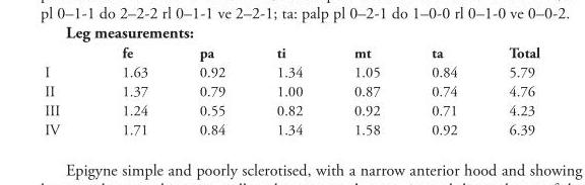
<table><thead><tr><td></td><td>fe</td><td>pa</td><td>ti</td><td>mt</td><td>ta</td><td>Total</td></tr></thead><tbody><tr><td>I</td><td>1.63</td><td>0.92</td><td>1.34</td><td>1.05</td><td>0.84</td><td>5.79</td></tr><tr><td>II</td><td>1.37</td><td>0.79</td><td>1.00</td><td>0.87</td><td>0.74</td><td>4.76</td></tr><tr><td>III</td><td>1.24</td><td>0.55</td><td>0.82</td><td>0.92</td><td>0.71</td><td>4.23</td></tr><tr><td>IV</td><td>1.71</td><td>0.84</td><td>1.34</td><td>1.58</td><td>0.92</td><td>6.39</td></tr></tbody></table>